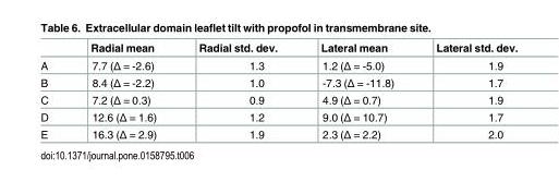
<table><thead><tr><td></td><td>Radial mean</td><td>Radial std. dev.</td><td>Lateral mean</td><td>Lateral std. dev.</td></tr></thead><tbody><tr><td>A</td><td>7.7 (Δ = -2.6)</td><td>1.3</td><td>1.2 (Δ = -5.0)</td><td>1.9</td></tr><tr><td>B</td><td>8.4 (Δ = -2.2)</td><td>1.0</td><td>-7.3 (Δ = -11.8)</td><td>1.7</td></tr><tr><td>C</td><td>7.2 (Δ = 0.3)</td><td>0.9</td><td>4.9 (Δ = 0.7)</td><td>1.9</td></tr><tr><td>D</td><td>12.6 (Δ = 1.6)</td><td>1.2</td><td>9.0 (Δ = 10.7)</td><td>1.7</td></tr><tr><td>E</td><td>16.3 (Δ = 2.9)</td><td>1.9</td><td>2.3 (Δ = 2.2)</td><td>2.0</td></tr></tbody></table>